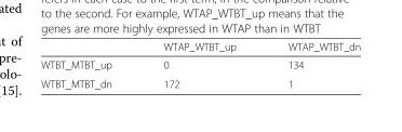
<table><thead><tr><td></td><td>WTAP_WTBT_up</td><td>WTAP_WTBT_dn</td></tr></thead><tbody><tr><td>WTBT_MTBT_up</td><td>0</td><td>134</td></tr><tr><td>WTBT_MTBT_dn</td><td>172</td><td>1</td></tr></tbody></table>